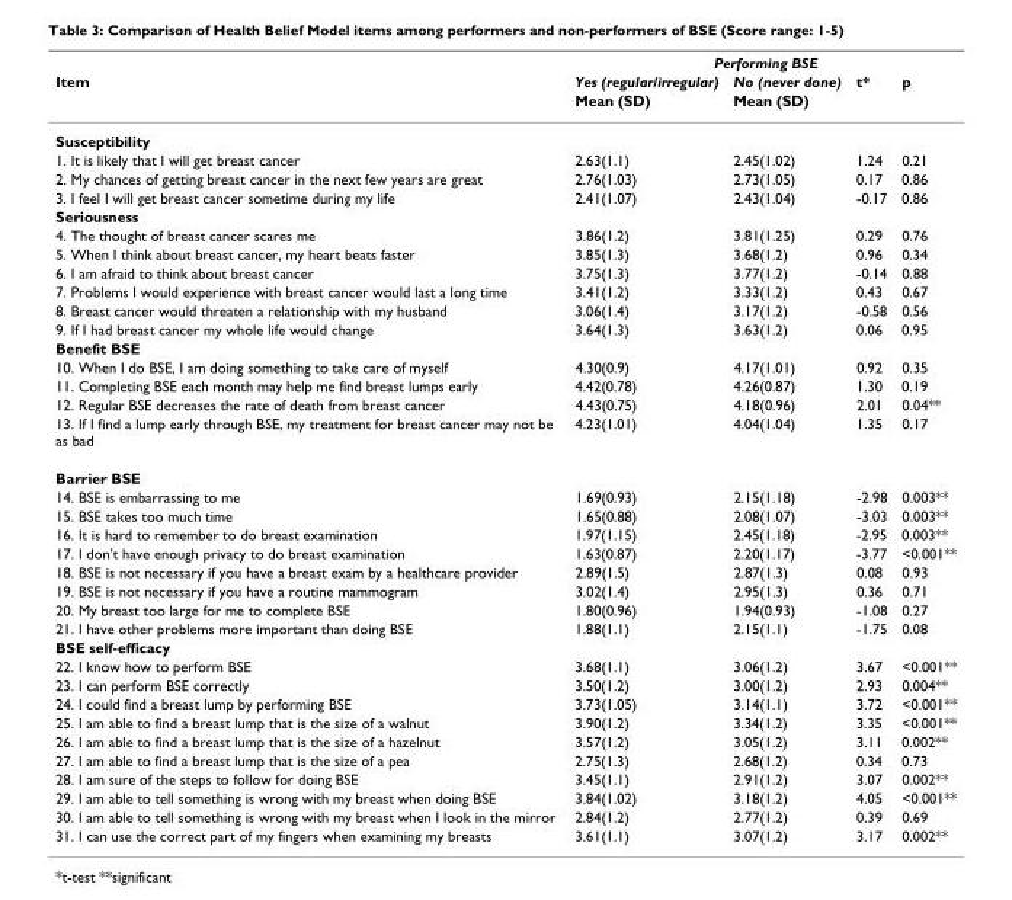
<table><thead><tr><td rowspan="3">Item</td><td colspan="4">Performing BSE</td></tr><tr><td rowspan="2">Yes (regular/irregular) Mean (SD)</td><td rowspan="2">No (never done) Mean (SD)</td><td rowspan="2">t*</td><td rowspan="2">p</td></tr><tr></tr></thead><tbody><tr><td colspan="5">Susceptibility</td></tr><tr><td>1. It is likely that I will get breast cancer</td><td>2.63(1.1)</td><td>2.45(1.02)</td><td>1.24</td><td>0.21</td></tr><tr><td>2. My chances of getting breast cancer in the next few years are great</td><td>2.76(1.03)</td><td>2.73(1.05)</td><td>0.17</td><td>0.86</td></tr><tr><td>3. I feel I will get breast cancer sometime during my life</td><td>2.41(1.07)</td><td>2.43(1.04)</td><td>-0.17</td><td>0.86</td></tr><tr><td colspan="5">Seriousness</td></tr><tr><td>4. The thought of breast cancer scares me</td><td>3.86(1.2)</td><td>3.81(1.25)</td><td>0.29</td><td>0.76</td></tr><tr><td>5. When I think about breast cancer, my heart beats faster</td><td>3.85(1.3)</td><td>3.68(1.2)</td><td>0.96</td><td>0.34</td></tr><tr><td>6. I am afraid to think about breast cancer</td><td>3.75(1.3)</td><td>3.77(1.2)</td><td>-0.14</td><td>0.88</td></tr><tr><td>7. Problems I would experience with breast cancer would last a long time</td><td>3.41(1.2)</td><td>3.33(1.2)</td><td>0.43</td><td>0.67</td></tr><tr><td>8. Breast cancer would threaten a relationship with my husband</td><td>3.06(1.4)</td><td>3.17(1.2)</td><td>-0.58</td><td>0.56</td></tr><tr><td>9. If I had breast cancer my whole life would change</td><td>3.64(1.3)</td><td>3.63(1.2)</td><td>0.06</td><td>0.95</td></tr><tr><td colspan="5">Benefit BSE</td></tr><tr><td>10. When I do BSE, I am doing something to take care of myself</td><td>4.30(0.9)</td><td>4.17(1.01)</td><td>0.92</td><td>0.35</td></tr><tr><td>11. Completing BSE each month may help me find breast lumps early</td><td>4.42(0.78)</td><td>4.26(0.87)</td><td>1.30</td><td>0.19</td></tr><tr><td>12. Regular BSE decreases the rate of death from breast cancer</td><td>4.43(0.75)</td><td>4.18(0.96)</td><td>2.01</td><td>0.04**</td></tr><tr><td>13. If I find a lump early through BSE, my treatment for breast cancer may not be as bad</td><td>4.23(1.01)</td><td>4.04(1.04)</td><td>1.35</td><td>0.17</td></tr><tr><td colspan="5">Barrier BSE</td></tr><tr><td>14. BSE is embarrassing to me</td><td>1.69(0.93)</td><td>2.15(1.18)</td><td>-2.98</td><td>0.003**</td></tr><tr><td>15. BSE takes too much time</td><td>1.65(0.88)</td><td>2.08(1.07)</td><td>-3.03</td><td>0.003**</td></tr><tr><td>16. It is hard to remember to do breast examination</td><td>1.97(1.15)</td><td>2.45(1.18)</td><td>-2.95</td><td>0.003**</td></tr><tr><td>17. I don&#x27;t have enough privacy to do breast examination</td><td>1.63(0.87)</td><td>2.20(1.17)</td><td>-3.77</td><td>&lt;0.001**</td></tr><tr><td>18. BSE is not necessary if you have a breast exam by a healthcare provider</td><td>2.89(1.5)</td><td>2.87(1.3)</td><td>0.08</td><td>0.93</td></tr><tr><td>19. BSE is not necessary if you have a routine mammogram</td><td>3.02(1.4)</td><td>2.95(1.3)</td><td>0.36</td><td>0.71</td></tr><tr><td>20. My breast too large for me to complete BSE</td><td>1.80(0.96)</td><td>1.94(0.93)</td><td>-1.08</td><td>0.27</td></tr><tr><td>21. I have other problems more important than doing BSE</td><td>1.88(1.1)</td><td>2.15(1.1)</td><td>-1.75</td><td>0.08</td></tr><tr><td colspan="5">BSE self-efficacy</td></tr><tr><td>22. I know how to perform BSE</td><td>3.68(1.1)</td><td>3.06(1.2)</td><td>3.67</td><td>&lt;0.001**</td></tr><tr><td>23. I can perform BSE correctly</td><td>3.50(1.2)</td><td>3.00(1.2)</td><td>2.93</td><td>0.004**</td></tr><tr><td>24. I could find a breast lump by performing BSE</td><td>3.73(1.05)</td><td>3.14(1.1)</td><td>3.72</td><td>&lt;0.001**</td></tr><tr><td>25. I am able to find a breast lump that is the size of a walnut</td><td>3.90(1.2)</td><td>3.34(1.2)</td><td>3.35</td><td>&lt;0.001**</td></tr><tr><td>26. I am able to find a breast lump that is the size of a hazelnut</td><td>3.57(1.2)</td><td>3.05(1.2)</td><td>3.11</td><td>0.002**</td></tr><tr><td>27. I am able to find a breast lump that is the size of a pea</td><td>2.75(1.3)</td><td>2.68(1.2)</td><td>0.34</td><td>0.73</td></tr><tr><td>28. I am sure of the steps to follow for doing BSE</td><td>3.45(1.1)</td><td>2.91(1.2)</td><td>3.07</td><td>0.002**</td></tr><tr><td>29. I am able to tell something is wrong with my breast when doing BSE</td><td>3.84(1.02)</td><td>3.18(1.2)</td><td>4.05</td><td>&lt;0.001**</td></tr><tr><td>30. I am able to tell something is wrong with my breast when I look in the mirror</td><td>2.84(1.2)</td><td>2.77(1.2)</td><td>0.39</td><td>0.69</td></tr><tr><td>31. I can use the correct part of my fingers when examining my breasts</td><td>3.61(1.1)</td><td>3.07(1.2)</td><td>3.17</td><td>0.002**</td></tr></tbody></table>